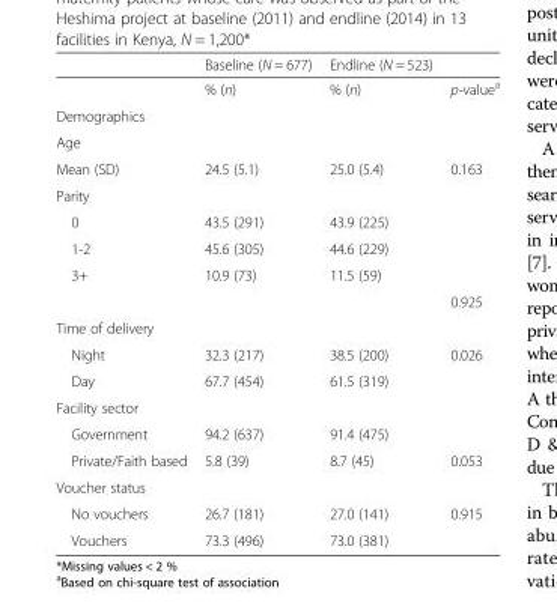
<table><thead><tr><td></td><td>Baseline (N = 677)</td><td>Endline (N = 523)</td><td></td></tr></thead><tbody><tr><td></td><td>% (n)</td><td>% (n)</td><td>p-value<sup>a</sup></td></tr><tr><td colspan="4">Demographics</td></tr><tr><td colspan="4">Age</td></tr><tr><td>Mean (SD)</td><td>24.5 (5.1)</td><td>25.0 (5.4)</td><td>0.163</td></tr><tr><td colspan="4">Parity</td></tr><tr><td>0</td><td>43.5 (291)</td><td>43.9 (225)</td><td></td></tr><tr><td>1-2</td><td>45.6 (305)</td><td>44.6 (229)</td><td></td></tr><tr><td rowspan="2">3+</td><td>10.9 (73)</td><td>11.5 (59)</td><td></td></tr><tr><td></td><td></td><td>0.925</td></tr><tr><td colspan="4">Time of delivery</td></tr><tr><td>Night</td><td>32.3 (217)</td><td>38.5 (200)</td><td>0.026</td></tr><tr><td>Day</td><td>67.7 (454)</td><td>61.5 (319)</td><td></td></tr><tr><td colspan="4">Facility sector</td></tr><tr><td>Government</td><td>94.2 (637)</td><td>91.4 (475)</td><td></td></tr><tr><td>Private/Faith based</td><td>5.8 (39)</td><td>8.7 (45)</td><td>0.053</td></tr><tr><td colspan="4">Voucher status</td></tr><tr><td>No vouchers</td><td>26.7 (181)</td><td>27.0 (141)</td><td>0.915</td></tr><tr><td>Vouchers</td><td>73.3 (496)</td><td>73.0 (381)</td><td></td></tr></tbody></table>